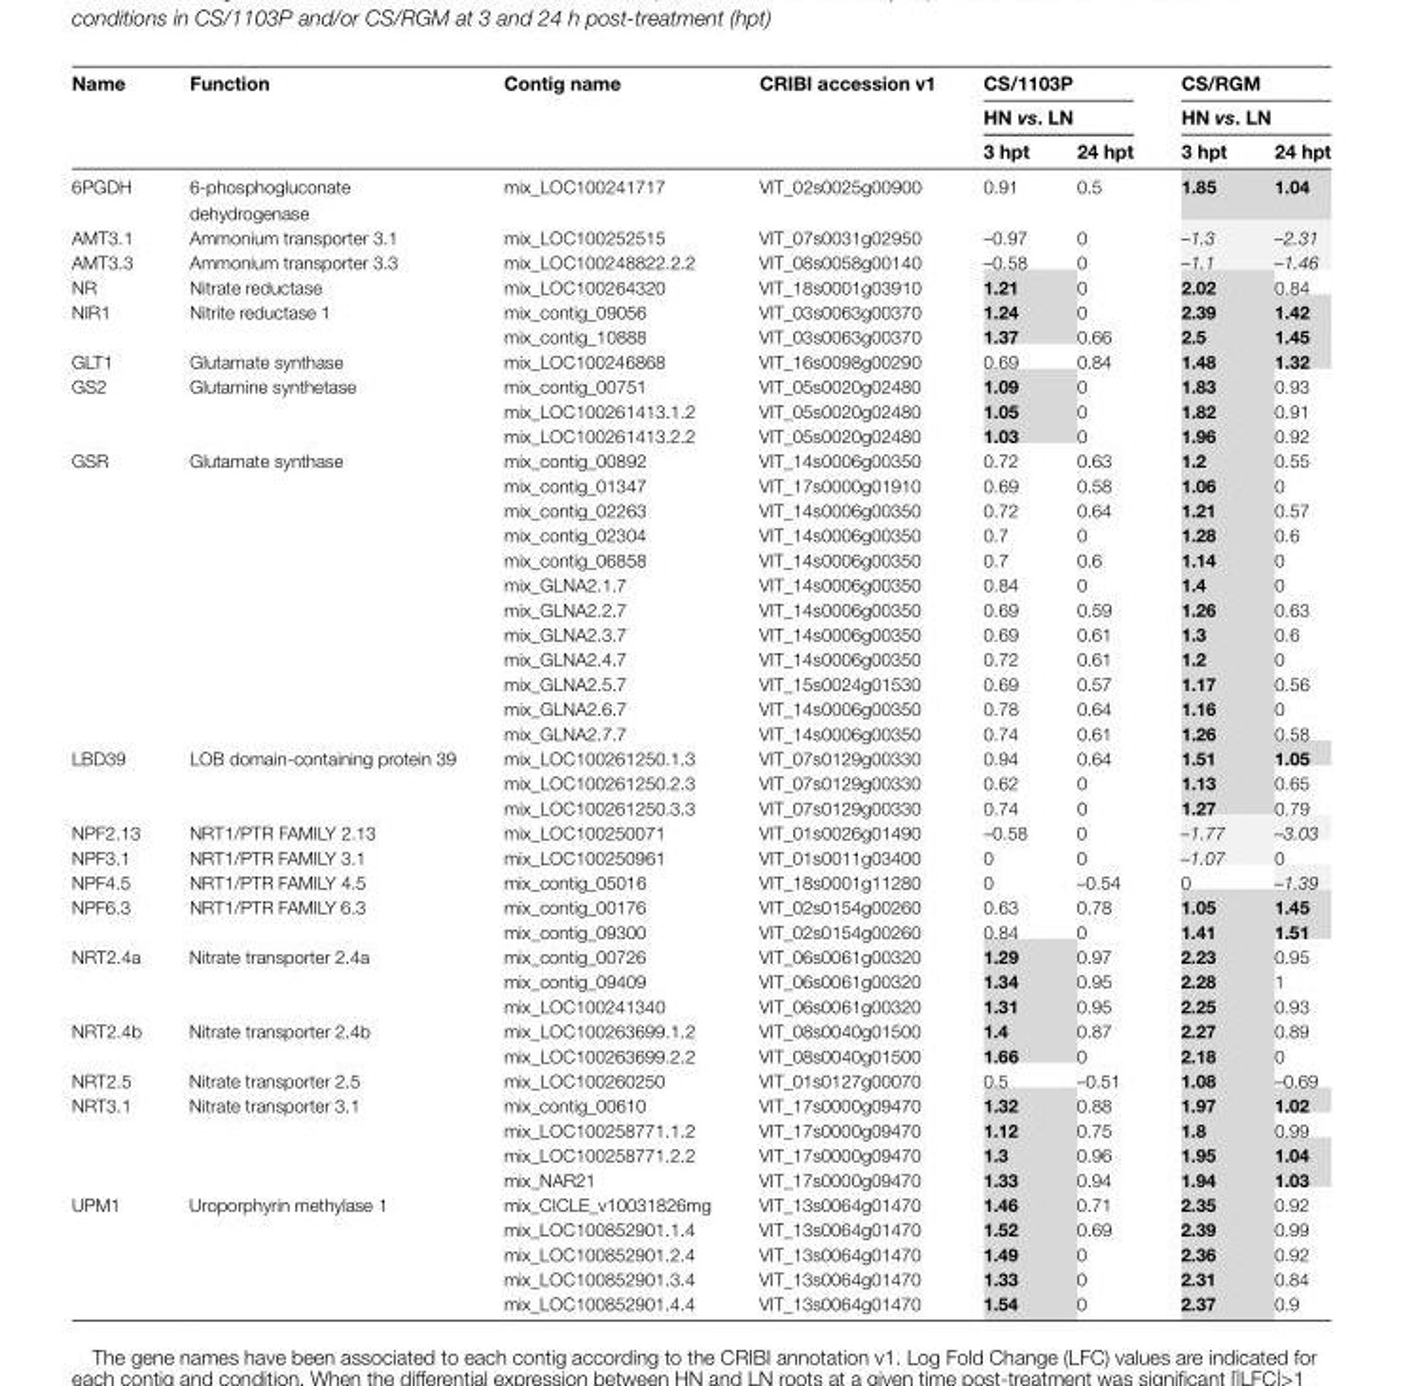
<table><thead><tr><td rowspan="3">Name</td><td rowspan="3">Function</td><td rowspan="3">Contig name</td><td rowspan="3">CRIBI accession v1</td><td rowspan="2" colspan="2">CS/1103P HN vs. LN</td><td rowspan="2" colspan="2">CS/RGM HN vs. LN</td></tr><tr></tr><tr><td>3 hpt</td><td>24 hpt</td><td>3 hpt</td><td>24 hpt</td></tr></thead><tbody><tr><td>6PGDH</td><td>6-phosphogluconate dehydrogenase</td><td>mix_LOC100241717</td><td>VIT_02s0025g00900</td><td>0.91</td><td>0.5</td><td>1.85</td><td>1.04</td></tr><tr><td>AMT3.1</td><td>Ammonium transporter 3.1</td><td>mix_LOC100252515</td><td>VIT_07s0031g02950</td><td>–0.97</td><td>0</td><td>–1.3</td><td>–2.31</td></tr><tr><td>AMT3.3</td><td>Ammonium transporter 3.3</td><td>mix_LOC100248822.2.2</td><td>VIT_08s0058g00140</td><td>–0.58</td><td>0</td><td>–1.1</td><td>–1.46</td></tr><tr><td>NR</td><td>Nitrate reductase</td><td>mix_LOC100264320</td><td>VIT_18s0001g03910</td><td>1.21</td><td>0</td><td>2.02</td><td>0.84</td></tr><tr><td rowspan="2">NIR1</td><td rowspan="2">Nitrite reductase 1</td><td>mix_contig_09056</td><td>VIT_03s0063g00370</td><td>1.24</td><td>0</td><td>2.39</td><td>1.42</td></tr><tr><td>mix_contig_10888</td><td>VIT_03s0063g00370</td><td>1.37</td><td>0.66</td><td>2.5</td><td>1.45</td></tr><tr><td>GLT1</td><td>Glutamate synthase</td><td>mix_LOC100246868</td><td>VIT_16s0098g00290</td><td>0.69</td><td>0.84</td><td>1.48</td><td>1.32</td></tr><tr><td rowspan="3">GS2</td><td rowspan="3">Glutamine synthetase</td><td>mix_contig_00751</td><td>VIT_05s0020g02480</td><td>1.09</td><td>0</td><td>1.83</td><td>0.93</td></tr><tr><td>mix_LOC100261413.1.2</td><td>VIT_05s0020g02480</td><td>1.05</td><td>0</td><td>1.82</td><td>0.91</td></tr><tr><td>mix_LOC100261413.2.2</td><td>VIT_05s0020g02480</td><td>1.03</td><td>0</td><td>1.96</td><td>0.92</td></tr><tr><td rowspan="12">GSR</td><td rowspan="12">Glutamate synthase</td><td>mix_contig_00892</td><td>VIT_14s0006g00350</td><td>0.72</td><td>0.63</td><td>1.2</td><td>0.55</td></tr><tr><td>mix_contig_01347</td><td>VIT_17s0000g01910</td><td>0.69</td><td>0.58</td><td>1.06</td><td>0</td></tr><tr><td>mix_contig_02263</td><td>VIT_14s0006g00350</td><td>0.72</td><td>0.64</td><td>1.21</td><td>0.57</td></tr><tr><td>mix_contig_02304</td><td>VIT_14s0006g00350</td><td>0.7</td><td>0</td><td>1.28</td><td>0.6</td></tr><tr><td>mix_contig_06858</td><td>VIT_14s0006g00350</td><td>0.7</td><td>0.6</td><td>1.14</td><td>0</td></tr><tr><td>mix_GLNA2.1.7</td><td>VIT_14s0006g00350</td><td>0.84</td><td>0</td><td>1.4</td><td>0</td></tr><tr><td>mix_GLNA2.2.7</td><td>VIT_14s0006g00350</td><td>0.69</td><td>0.59</td><td>1.26</td><td>0.63</td></tr><tr><td>mix_GLNA2.3.7</td><td>VIT_14s0006g00350</td><td>0.69</td><td>0.61</td><td>1.3</td><td>0.6</td></tr><tr><td>mix_GLNA2.4.7</td><td>VIT_14s0006g00350</td><td>0.72</td><td>0.61</td><td>1.2</td><td>0</td></tr><tr><td>mix_GLNA2.5.7</td><td>VIT_15s0024g01530</td><td>0.69</td><td>0.57</td><td>1.17</td><td>0.56</td></tr><tr><td>mix_GLNA2.6.7</td><td>VIT_14s0006g00350</td><td>0.78</td><td>0.64</td><td>1.16</td><td>0</td></tr><tr><td>mix_GLNA2.7.7</td><td>VIT_14s0006g00350</td><td>0.74</td><td>0.61</td><td>1.26</td><td>0.58</td></tr><tr><td rowspan="3">LBD39</td><td rowspan="3">LOB domain-containing protein 39</td><td>mix_LOC100261250.1.3</td><td>VIT_07s0129g00330</td><td>0.94</td><td>0.64</td><td>1.51</td><td>1.05</td></tr><tr><td>mix_LOC100261250.2.3</td><td>VIT_07s0129g00330</td><td>0.62</td><td>0</td><td>1.13</td><td>0.65</td></tr><tr><td>mix_LOC100261250.3.3</td><td>VIT_07s0129g00330</td><td>0.74</td><td>0</td><td>1.27</td><td>0.79</td></tr><tr><td>NPF2.13</td><td>NRT1/PTR FAMILY 2.13</td><td>mix_LOC100250071</td><td>VIT_01s0026g01490</td><td>–0.58</td><td>0</td><td>–1.77</td><td>–3.03</td></tr><tr><td>NPF3.1</td><td>NRT1/PTR FAMILY 3.1</td><td>mix_LOC100250961</td><td>VIT_01s0011g03400</td><td>0</td><td>0</td><td>–1.07</td><td>0</td></tr><tr><td>NPF4.5</td><td>NRT1/PTR FAMILY 4.5</td><td>mix_contig_05016</td><td>VIT_18s0001g11280</td><td>0</td><td>–0.54</td><td>0</td><td>–1.39</td></tr><tr><td rowspan="2">NPF6.3</td><td rowspan="2">NRT1/PTR FAMILY 6.3</td><td>mix_contig_00176</td><td>VIT_02s0154g00260</td><td>0.63</td><td>0.78</td><td>1.05</td><td>1.45</td></tr><tr><td>mix_contig_09300</td><td>VIT_02s0154g00260</td><td>0.84</td><td>0</td><td>1.41</td><td>1.51</td></tr><tr><td rowspan="3">NRT2.4a</td><td rowspan="3">Nitrate transporter 2.4a</td><td>mix_contig_00726</td><td>VIT_06s0061g00320</td><td>1.29</td><td>0.97</td><td>2.23</td><td>0.95</td></tr><tr><td>mix_contig_09409</td><td>VIT_06s0061g00320</td><td>1.34</td><td>0.95</td><td>2.28</td><td>1</td></tr><tr><td>mix_LOC100241340</td><td>VIT_06s0061g00320</td><td>1.31</td><td>0.95</td><td>2.25</td><td>0.93</td></tr><tr><td rowspan="2">NRT2.4b</td><td rowspan="2">Nitrate transporter 2.4b</td><td>mix_LOC100263699.1.2</td><td>VIT_08s0040g01500</td><td>1.4</td><td>0.87</td><td>2.27</td><td>0.89</td></tr><tr><td>mix_LOC100263699.2.2</td><td>VIT_08s0040g01500</td><td>1.66</td><td>0</td><td>2.18</td><td>0</td></tr><tr><td>NRT2.5</td><td>Nitrate transporter 2.5</td><td>mix_LOC100260250</td><td>VIT_01s0127g00070</td><td>0.5</td><td>–0.51</td><td>1.08</td><td>–0.69</td></tr><tr><td rowspan="4">NRT3.1</td><td rowspan="4">Nitrate transporter 3.1</td><td>mix_contig_00610</td><td>VIT_17s0000g09470</td><td>1.32</td><td>0.88</td><td>1.97</td><td>1.02</td></tr><tr><td>mix_LOC100258771.1.2</td><td>VIT_17s0000g09470</td><td>1.12</td><td>0.75</td><td>1.8</td><td>0.99</td></tr><tr><td>mix_LOC100258771.2.2</td><td>VIT_17s0000g09470</td><td>1.3</td><td>0.96</td><td>1.95</td><td>1.04</td></tr><tr><td>mix_NAR21</td><td>VIT_17s0000g09470</td><td>1.33</td><td>0.94</td><td>1.94</td><td>1.03</td></tr><tr><td rowspan="5">UPM1</td><td rowspan="5">Uroporphyrin methylase 1</td><td>mix_CICLE_v10031826mg</td><td>VIT_13s0064g01470</td><td>1.46</td><td>0.71</td><td>2.35</td><td>0.92</td></tr><tr><td>mix_LOC100852901.1.4</td><td>VIT_13s0064g01470</td><td>1.52</td><td>0.69</td><td>2.39</td><td>0.99</td></tr><tr><td>mix_LOC100852901.2.4</td><td>VIT_13s0064g01470</td><td>1.49</td><td>0</td><td>2.36</td><td>0.92</td></tr><tr><td>mix_LOC100852901.3.4</td><td>VIT_13s0064g01470</td><td>1.33</td><td>0</td><td>2.31</td><td>0.84</td></tr><tr><td>mix_LOC100852901.4.4</td><td>VIT_13s0064g01470</td><td>1.54</td><td>0</td><td>2.37</td><td>0.9</td></tr></tbody></table>